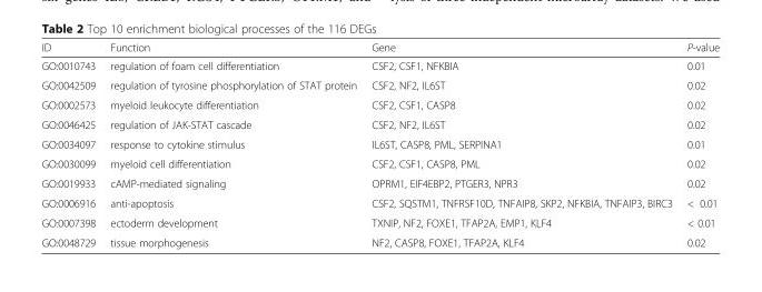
<table><thead><tr><td>ID</td><td>Function</td><td>Gene</td><td>P-value</td></tr></thead><tbody><tr><td>GO:0010743</td><td>regulation of foam cell differentiation</td><td>CSF2, CSF1, NFKBIA</td><td>0.01</td></tr><tr><td>GO:0042509</td><td>regulation of tyrosine phosphorylation of STAT protein</td><td>CSF2, NF2, IL6ST</td><td>0.02</td></tr><tr><td>GO:0002573</td><td>myeloid leukocyte differentiation</td><td>CSF2, CSF1, CASP8</td><td>0.02</td></tr><tr><td>GO:0046425</td><td>regulation of JAK-STAT cascade</td><td>CSF2, NF2, IL6ST</td><td>0.02</td></tr><tr><td>GO:0034097</td><td>response to cytokine stimulus</td><td>IL6ST, CASP8, PML, SERPINA1</td><td>0.01</td></tr><tr><td>GO:0030099</td><td>myeloid cell differentiation</td><td>CSF2, CSF1, CASP8, PML</td><td>0.02</td></tr><tr><td>GO:0019933</td><td>cAMP-mediated signaling</td><td>OPRM1, EIF4EBP2, PTGER3, NPR3</td><td>0.02</td></tr><tr><td>GO:0006916</td><td>anti-apoptosis</td><td>CSF2, SQSTM1, TNFRSF10D, TNFAIP8, SKP2, NFKBIA, TNFAIP3, BIRC3</td><td>&lt; 0.01</td></tr><tr><td>GO:0007398</td><td>ectoderm development</td><td>TXNIP, NF2, FOXE1, TFAP2A, EMP1, KLF4</td><td>&lt; 0.01</td></tr><tr><td>GO:0048729</td><td>tissue morphogenesis</td><td>NF2, CASP8, FOXE1, TFAP2A, KLF4</td><td>0.02</td></tr></tbody></table>